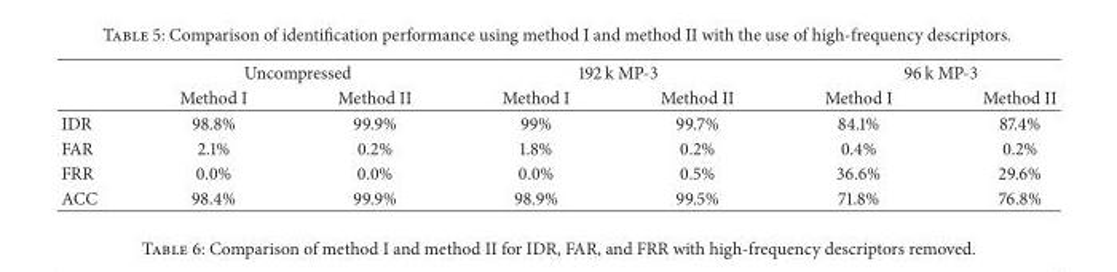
<table><thead><tr><td rowspan="2"></td><td colspan="2">Uncompressed</td><td colspan="2">192 k MP-3</td><td colspan="2">96 k MP-3</td></tr><tr><td>Method I</td><td>Method II</td><td>Method I</td><td>Method II</td><td>Method I</td><td>Method II</td></tr></thead><tbody><tr><td>IDR</td><td>98.8%</td><td>99.9%</td><td>99%</td><td>99.7%</td><td>84.1%</td><td>87.4%</td></tr><tr><td>FAR</td><td>2.1%</td><td>0.2%</td><td>1.8%</td><td>0.2%</td><td>0.4%</td><td>0.2%</td></tr><tr><td>FRR</td><td>0.0%</td><td>0.0%</td><td>0.0%</td><td>0.5%</td><td>36.6%</td><td>29.6%</td></tr><tr><td>ACC</td><td>98.4%</td><td>99.9%</td><td>98.9%</td><td>99.5%</td><td>71.8%</td><td>76.8%</td></tr></tbody></table>